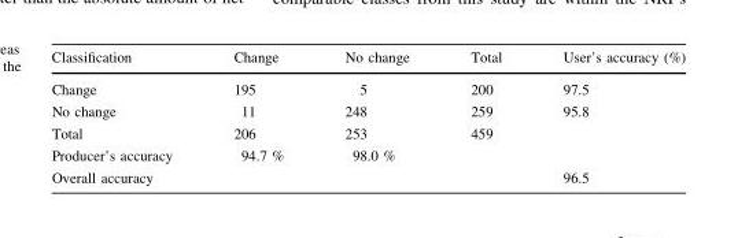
<table><thead><tr><td>Classification</td><td>Change</td><td>No change</td><td>Total</td><td>User’s accuracy (%)</td></tr></thead><tbody><tr><td>Change</td><td>195</td><td>5</td><td>200</td><td>97.5</td></tr><tr><td>No change</td><td>11</td><td>248</td><td>259</td><td>95.8</td></tr><tr><td>Total</td><td>206</td><td>253</td><td>459</td><td></td></tr><tr><td>Producer’s accuracy</td><td>94.7 %</td><td>98.0 %</td><td></td><td></td></tr><tr><td>Overall accuracy</td><td></td><td></td><td></td><td>96.5</td></tr></tbody></table>